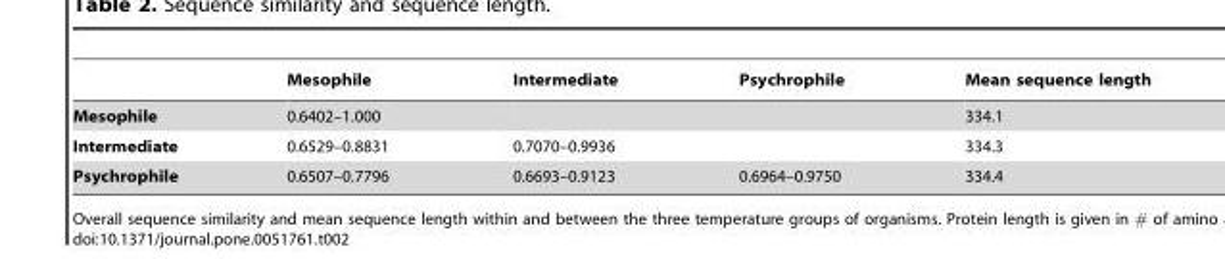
<table><thead><tr><td></td><td>Mesophile</td><td>Intermediate</td><td>Psychrophile</td><td>Mean sequence length</td></tr></thead><tbody><tr><td>Mesophile</td><td>0.6402–1.000</td><td></td><td></td><td>334.1</td></tr><tr><td>Intermediate</td><td>0.6529–0.8831</td><td>0.7070–0.9936</td><td></td><td>334.3</td></tr><tr><td>Psychrophile</td><td>0.6507–0.7796</td><td>0.6693–0.9123</td><td>0.6964–0.9750</td><td>334.4</td></tr></tbody></table>